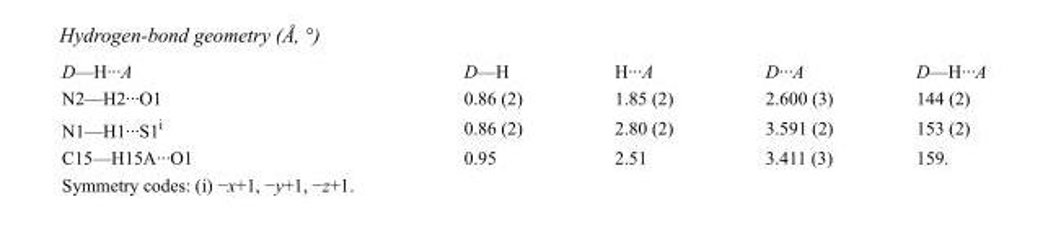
<table><tbody><tr><td>D—H···A</td><td>D—H</td><td>H···A</td><td>D···A</td><td>D—H···A</td></tr><tr><td>N2—H2···O1</td><td>0.86 (2)</td><td>1.85 (2)</td><td>2.600 (3)</td><td>144 (2)</td></tr><tr><td>N1—H1···S1<sup>i</sup></td><td>0.86 (2)</td><td>2.80 (2)</td><td>3.591 (2)</td><td>153 (2)</td></tr><tr><td>C15—H15A···O1</td><td>0.95</td><td>2.51</td><td>3.411 (3)</td><td>159.</td></tr></tbody></table>